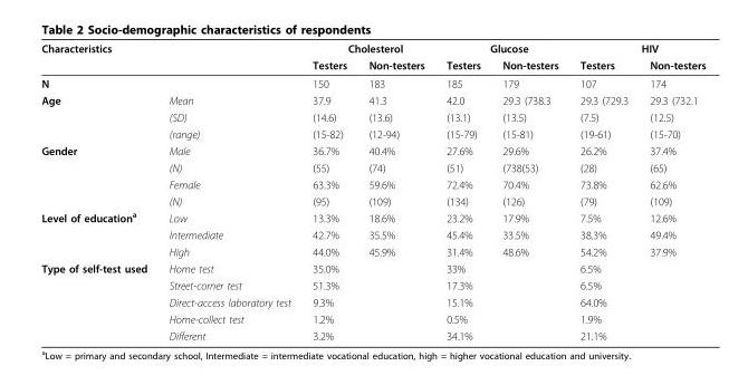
<table><thead><tr><td colspan="2">Characteristics</td><td colspan="2">Cholesterol</td><td colspan="2">Glucose</td><td colspan="2">HIV</td></tr><tr><td></td><td></td><td>Testers</td><td>Non-testers</td><td>Testers</td><td>Non-testers</td><td>Testers</td><td>Non-testers</td></tr></thead><tbody><tr><td colspan="2">N</td><td>150</td><td>183</td><td>185</td><td>179</td><td>107</td><td>174</td></tr><tr><td rowspan="3">Age</td><td>Mean</td><td>37.9</td><td>41.3</td><td>42.0</td><td>29.3 (738.3</td><td>29.3 (729.3</td><td>29.3 (732.1</td></tr><tr><td>(SD)</td><td>(14.6)</td><td>(13.6)</td><td>(13.1)</td><td>(13.5)</td><td>(7.5)</td><td>(12.5)</td></tr><tr><td>(range)</td><td>(15-82)</td><td>(12-94)</td><td>(15-79)</td><td>(15-81)</td><td>(19-61)</td><td>(15-70)</td></tr><tr><td rowspan="4">Gender</td><td>Male</td><td>36.7%</td><td>40.4%</td><td>27.6%</td><td>29.6%</td><td>26.2%</td><td>37.4%</td></tr><tr><td>(N)</td><td>(55)</td><td>(74)</td><td>(51)</td><td>(738(53)</td><td>(28)</td><td>(65)</td></tr><tr><td>Female</td><td>63.3%</td><td>59.6%</td><td>72.4%</td><td>70.4%</td><td>73.8%</td><td>62.6%</td></tr><tr><td>(N)</td><td>(95)</td><td>(109)</td><td>(134)</td><td>(126)</td><td>(79)</td><td>(109)</td></tr><tr><td rowspan="3">Level of education<sup>a</sup></td><td>Low</td><td>13.3%</td><td>18.6%</td><td>23.2%</td><td>17.9%</td><td>7.5%</td><td>12.6%</td></tr><tr><td>Intermediate</td><td>42.7%</td><td>35.5%</td><td>45.4%</td><td>33.5%</td><td>38.3%</td><td>49.4%</td></tr><tr><td>High</td><td>44.0%</td><td>45.9%</td><td>31.4%</td><td>48.6%</td><td>54.2%</td><td>37.9%</td></tr><tr><td rowspan="5">Type of self-test used</td><td>Home test</td><td>35.0%</td><td></td><td>33%</td><td></td><td>6.5%</td><td></td></tr><tr><td>Street-corner test</td><td>51.3%</td><td></td><td>17.3%</td><td></td><td>6.5%</td><td></td></tr><tr><td>Direct-access laboratory test</td><td>9.3%</td><td></td><td>15.1%</td><td></td><td>64.0%</td><td></td></tr><tr><td>Home-collect test</td><td>1.2%</td><td></td><td>0.5%</td><td></td><td>1.9%</td><td></td></tr><tr><td>Different</td><td>3.2%</td><td></td><td>34.1%</td><td></td><td>21.1%</td><td></td></tr></tbody></table>